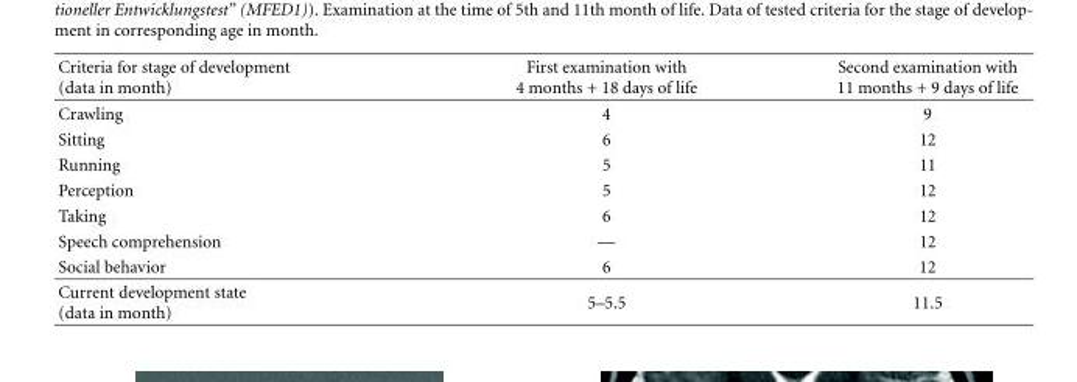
<table><thead><tr><td>Criteria for stage of development (data in month)</td><td>First examination with 4 months + 18 days of life</td><td>Second examination with 11 months + 9 days of life</td></tr></thead><tbody><tr><td>Crawling</td><td>4</td><td>9</td></tr><tr><td>Sitting</td><td>6</td><td>12</td></tr><tr><td>Running</td><td>5</td><td>11</td></tr><tr><td>Perception</td><td>5</td><td>12</td></tr><tr><td>Taking</td><td>6</td><td>12</td></tr><tr><td>Speech comprehension</td><td>—</td><td>12</td></tr><tr><td>Social behavior</td><td>6</td><td>12</td></tr><tr><td>Current development state (data in month)</td><td>5–5.5</td><td>11.5</td></tr></tbody></table>